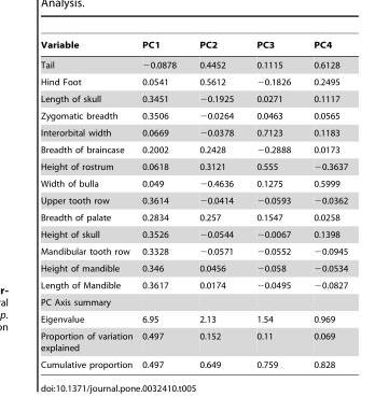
<table><thead><tr><td>Variable</td><td>PC1</td><td>PC2</td><td>PC3</td><td>PC4</td></tr></thead><tbody><tr><td>Tail</td><td>−0.0878</td><td>0.4452</td><td>0.1115</td><td>0.6128</td></tr><tr><td>Hind Foot</td><td>0.0541</td><td>0.5612</td><td>−0.1826</td><td>0.2495</td></tr><tr><td>Length of skull</td><td>0.3451</td><td>−0.1925</td><td>0.0271</td><td>0.1117</td></tr><tr><td>Zygomatic breadth</td><td>0.3506</td><td>−0.0264</td><td>0.0463</td><td>0.0565</td></tr><tr><td>Interorbital width</td><td>0.0669</td><td>−0.0378</td><td>0.7123</td><td>0.1183</td></tr><tr><td>Breadth of braincase</td><td>0.2002</td><td>0.2428</td><td>−0.2888</td><td>0.0173</td></tr><tr><td>Height of rostrum</td><td>0.0618</td><td>0.3121</td><td>0.555</td><td>−0.3637</td></tr><tr><td>Width of bulla</td><td>0.049</td><td>−0.4636</td><td>0.1275</td><td>0.5999</td></tr><tr><td>Upper tooth row</td><td>0.3614</td><td>−0.0414</td><td>−0.0593</td><td>−0.0362</td></tr><tr><td>Breadth of palate</td><td>0.2834</td><td>0.257</td><td>0.1547</td><td>0.0258</td></tr><tr><td>Height of skull</td><td>0.3526</td><td>−0.0544</td><td>−0.0067</td><td>0.1398</td></tr><tr><td>Mandibular tooth row</td><td>0.3328</td><td>−0.0571</td><td>−0.0552</td><td>−0.0945</td></tr><tr><td>Height of mandible</td><td>0.346</td><td>0.0456</td><td>−0.058</td><td>−0.0534</td></tr><tr><td>Length of Mandible</td><td>0.3617</td><td>0.0174</td><td>−0.0495</td><td>−0.0827</td></tr><tr><td colspan="5">PC Axis summary</td></tr><tr><td>Eigenvalue</td><td>6.95</td><td>2.13</td><td>1.54</td><td>0.969</td></tr><tr><td>Proportion of variation explained</td><td>0.497</td><td>0.152</td><td>0.11</td><td>0.069</td></tr><tr><td>Cumulative proportion</td><td>0.497</td><td>0.649</td><td>0.759</td><td>0.828</td></tr></tbody></table>